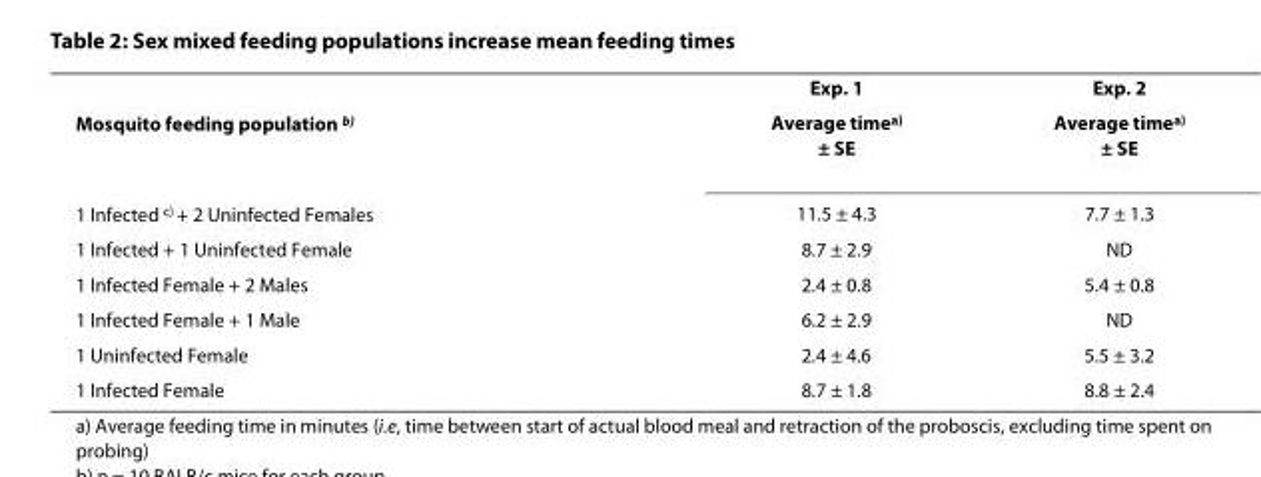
<table><thead><tr><td></td><td>Exp. 1</td><td>Exp. 2</td></tr></thead><tbody><tr><td>Mosquito feeding population <sup>b)</sup></td><td>Average time<sup>a)</sup> ± SE</td><td>Average time<sup>a)</sup> ± SE</td></tr><tr><td>1 Infected <sup>c)</sup> + 2 Uninfected Females</td><td>11.5 ± 4.3</td><td>7.7 ± 1.3</td></tr><tr><td>1 Infected + 1 Uninfected Female</td><td>8.7 ± 2.9</td><td>ND</td></tr><tr><td>1 Infected Female + 2 Males</td><td>2.4 ± 0.8</td><td>5.4 ± 0.8</td></tr><tr><td>1 Infected Female + 1 Male</td><td>6.2 ± 2.9</td><td>ND</td></tr><tr><td>1 Uninfected Female</td><td>2.4 ± 4.6</td><td>5.5 ± 3.2</td></tr><tr><td>1 Infected Female</td><td>8.7 ± 1.8</td><td>8.8 ± 2.4</td></tr></tbody></table>